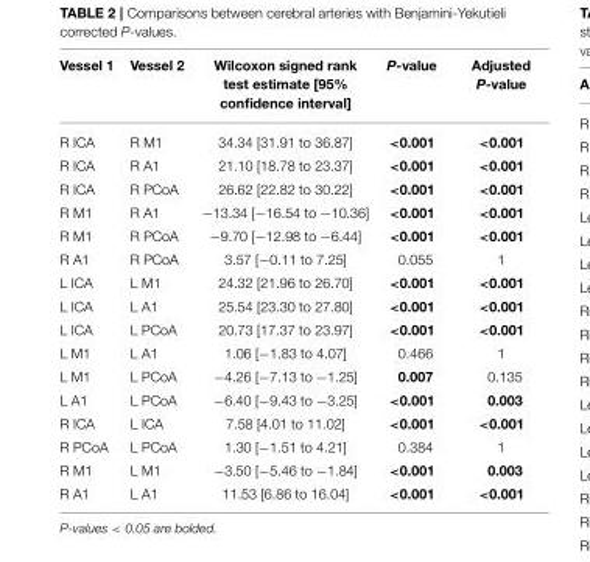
<table><thead><tr><td>Vessel 1</td><td>Vessel 2</td><td>Wilcoxon signed rank test estimate [95% confidence interval]</td><td>P-value</td><td>Adjusted P-value</td></tr></thead><tbody><tr><td>R ICA</td><td>R M1</td><td>34.34 [31.91 to 36.87]</td><td>&lt;0.001</td><td>&lt;0.001</td></tr><tr><td>R ICA</td><td>R A1</td><td>21.10 [18.78 to 23.37]</td><td>&lt;0.001</td><td>&lt;0.001</td></tr><tr><td>R ICA</td><td>R PCoA</td><td>26.62 [22.82 to 30.22]</td><td>&lt;0.001</td><td>&lt;0.001</td></tr><tr><td>R M1</td><td>R A1</td><td>−13.34 [−16.54 to −10.36]</td><td>&lt;0.001</td><td>&lt;0.001</td></tr><tr><td>R M1</td><td>R PCoA</td><td>−9.70 [−12.98 to −6.44]</td><td>&lt;0.001</td><td>&lt;0.001</td></tr><tr><td>R A1</td><td>R PCoA</td><td>3.57 [−0.11 to 7.25]</td><td>0.055</td><td>1</td></tr><tr><td>L ICA</td><td>L M1</td><td>24.32 [21.96 to 26.70]</td><td>&lt;0.001</td><td>&lt;0.001</td></tr><tr><td>L ICA</td><td>L A1</td><td>25.54 [23.30 to 27.80]</td><td>&lt;0.001</td><td>&lt;0.001</td></tr><tr><td>L ICA</td><td>L PCoA</td><td>20.73 [17.37 to 23.97]</td><td>&lt;0.001</td><td>&lt;0.001</td></tr><tr><td>L M1</td><td>L A1</td><td>1.06 [−1.83 to 4.07]</td><td>0.466</td><td>1</td></tr><tr><td>L M1</td><td>L PCoA</td><td>−4.26 [−7.13 to −1.25]</td><td>0.007</td><td>0.135</td></tr><tr><td>L A1</td><td>L PCoA</td><td>−6.40 [−9.43 to −3.25]</td><td>&lt;0.001</td><td>0.003</td></tr><tr><td>R ICA</td><td>L ICA</td><td>7.58 [4.01 to 11.02]</td><td>&lt;0.001</td><td>&lt;0.001</td></tr><tr><td>R PCoA</td><td>L PCoA</td><td>1.30 [−1.51 to 4.21]</td><td>0.384</td><td>1</td></tr><tr><td>R M1</td><td>L M1</td><td>−3.50 [−5.46 to −1.84]</td><td>&lt;0.001</td><td>0.003</td></tr><tr><td>R A1</td><td>L A1</td><td>11.53 [6.86 to 16.04]</td><td>&lt;0.001</td><td>&lt;0.001</td></tr></tbody></table>